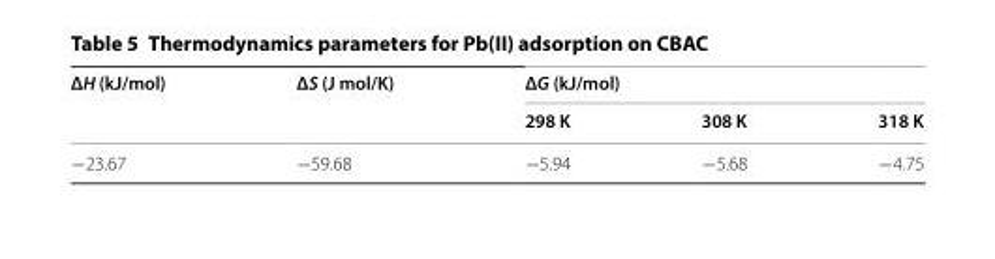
<table><thead><tr><td rowspan="2">ΔH (kJ/mol)</td><td rowspan="2">ΔS (J mol/K)</td><td colspan="3">ΔG (kJ/mol)</td></tr><tr><td>298 K</td><td>308 K</td><td>318 K</td></tr></thead><tbody><tr><td>−23.67</td><td>−59.68</td><td>−5.94</td><td>−5.68</td><td>−4.75</td></tr></tbody></table>